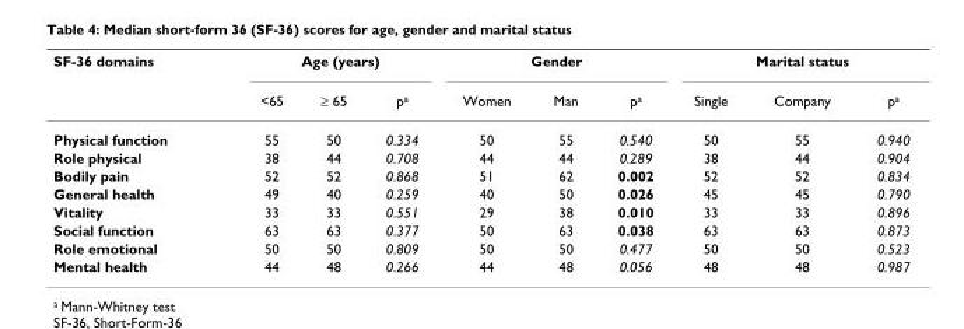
<table><thead><tr><td rowspan="2">SF-36 domains</td><td colspan="3">Age (years)</td><td colspan="3">Gender</td><td colspan="3">Marital status</td></tr><tr><td>&lt;65</td><td>≥ 65</td><td>p<sup>a</sup></td><td>Women</td><td>Man</td><td>p<sup>a</sup></td><td>Single</td><td>Company</td><td>p<sup>a</sup></td></tr></thead><tbody><tr><td>Physical function</td><td>55</td><td>50</td><td>0.334</td><td>50</td><td>55</td><td>0.540</td><td>50</td><td>55</td><td>0.940</td></tr><tr><td>Role physical</td><td>38</td><td>44</td><td>0.708</td><td>44</td><td>44</td><td>0.289</td><td>38</td><td>44</td><td>0.904</td></tr><tr><td>Bodily pain</td><td>52</td><td>52</td><td>0.868</td><td>51</td><td>62</td><td>0.002</td><td>52</td><td>52</td><td>0.834</td></tr><tr><td>General health</td><td>49</td><td>40</td><td>0.259</td><td>40</td><td>50</td><td>0.026</td><td>45</td><td>45</td><td>0.790</td></tr><tr><td>Vitality</td><td>33</td><td>33</td><td>0.551</td><td>29</td><td>38</td><td>0.010</td><td>33</td><td>33</td><td>0.896</td></tr><tr><td>Social function</td><td>63</td><td>63</td><td>0.377</td><td>50</td><td>63</td><td>0.038</td><td>63</td><td>63</td><td>0.873</td></tr><tr><td>Role emotional</td><td>50</td><td>50</td><td>0.809</td><td>50</td><td>50</td><td>0.477</td><td>50</td><td>50</td><td>0.523</td></tr><tr><td>Mental health</td><td>44</td><td>48</td><td>0.266</td><td>44</td><td>48</td><td>0.056</td><td>48</td><td>48</td><td>0.987</td></tr></tbody></table>